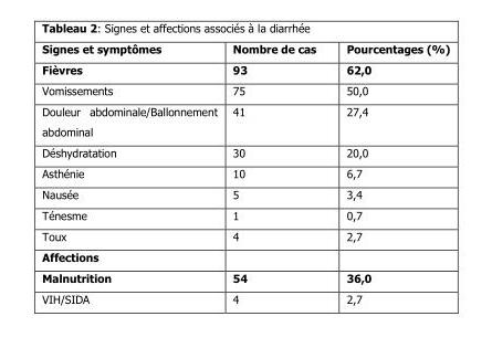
<table><thead><tr><td>Signes et symptômes</td><td>Nombre de cas</td><td>Pourcentages (%)</td></tr></thead><tbody><tr><td>Fièvres</td><td>93</td><td>62,0</td></tr><tr><td>Vomissements</td><td>75</td><td>50,0</td></tr><tr><td>Douleur abdominale/Ballonnement abdominal</td><td>41</td><td>27,4</td></tr><tr><td>Déshydratation</td><td>30</td><td>20,0</td></tr><tr><td>Asthénie</td><td>10</td><td>6,7</td></tr><tr><td>Nausée</td><td>5</td><td>3,4</td></tr><tr><td>Ténesme</td><td>1</td><td>0,7</td></tr><tr><td>Toux</td><td>4</td><td>2,7</td></tr><tr><td colspan="3">Affections</td></tr><tr><td>Malnutrition</td><td>54</td><td>36,0</td></tr><tr><td>VIH/SIDA</td><td>4</td><td>2,7</td></tr></tbody></table>